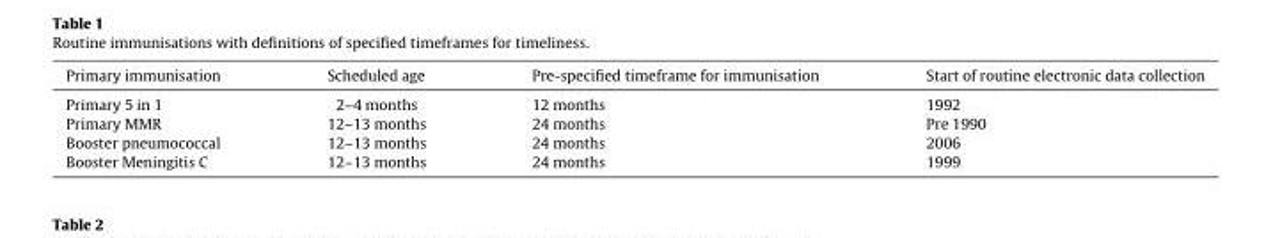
<table><thead><tr><td>Primary immunisation</td><td>Scheduled age</td><td>Pre-specified timeframe for immunisation</td><td>Start of routine electronic data collection</td></tr></thead><tbody><tr><td>Primary 5 in 1</td><td>2–4 months</td><td>12 months</td><td>1992</td></tr><tr><td>Primary MMR</td><td>12–13 months</td><td>24 months</td><td>Pre 1990</td></tr><tr><td>Booster pneumococcal</td><td>12–13 months</td><td>24 months</td><td>2006</td></tr><tr><td>Booster Meningitis C</td><td>12–13 months</td><td>24 months</td><td>1999</td></tr></tbody></table>